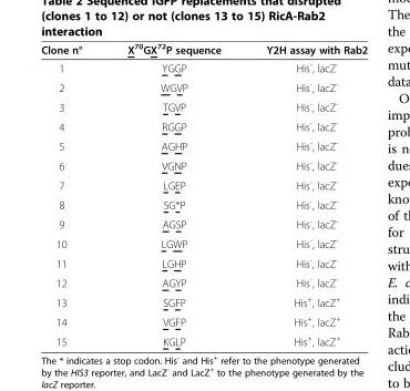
<table><thead><tr><td>Clone n°</td><td>X<sup>70</sup>GX<sup>72</sup>P sequence</td><td>Y2H assay with Rab2</td></tr></thead><tbody><tr><td>1</td><td>YGGP</td><td>His<sup>-</sup>, lacZ<sup>-</sup></td></tr><tr><td>2</td><td>WGVP</td><td>His<sup>-</sup>, lacZ<sup>-</sup></td></tr><tr><td>3</td><td>TGVP</td><td>His<sup>-</sup>, lacZ<sup>-</sup></td></tr><tr><td>4</td><td>RGGP</td><td>His<sup>-</sup>, lacZ<sup>-</sup></td></tr><tr><td>5</td><td>AGHP</td><td>His<sup>-</sup>, lacZ<sup>-</sup></td></tr><tr><td>6</td><td>VGNP</td><td>His<sup>-</sup>, lacZ<sup>-</sup></td></tr><tr><td>7</td><td>LGEP</td><td>His<sup>-</sup>, lacZ<sup>-</sup></td></tr><tr><td>8</td><td>SG*P</td><td>His<sup>-</sup>, lacZ<sup>-</sup></td></tr><tr><td>9</td><td>AGSP</td><td>His<sup>-</sup>, lacZ<sup>-</sup></td></tr><tr><td>10</td><td>LGWP</td><td>His<sup>-</sup>, lacZ<sup>-</sup></td></tr><tr><td>11</td><td>LGHP</td><td>His<sup>-</sup>, lacZ<sup>-</sup></td></tr><tr><td>12</td><td>AGYP</td><td>His<sup>-</sup>, lacZ<sup>-</sup></td></tr><tr><td>13</td><td>SGFP</td><td>His<sup>+</sup>, lacZ<sup>+</sup></td></tr><tr><td>14</td><td>VGFP</td><td>His<sup>+</sup>, lacZ<sup>+</sup></td></tr><tr><td>15</td><td>KGLP</td><td>His<sup>+</sup>, lacZ<sup>+</sup></td></tr></tbody></table>